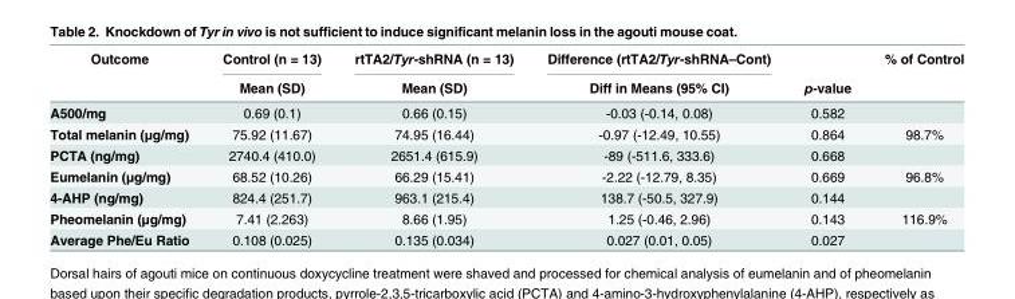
<table><thead><tr><td rowspan="2">Outcome</td><td rowspan="2">Control (n = 13) Mean (SD)</td><td rowspan="2">rtTA2/Tyr-shRNA (n = 13) Mean (SD)</td><td rowspan="2">Difference (rtTA2/Tyr-shRNA–Cont) Diff in Means (95% CI)</td><td rowspan="2">p-value</td><td rowspan="2">% of Control</td></tr><tr></tr></thead><tbody><tr><td>A500/mg</td><td>0.69 (0.1)</td><td>0.66 (0.15)</td><td>-0.03 (-0.14, 0.08)</td><td>0.582</td><td></td></tr><tr><td>Total melanin (μg/mg)</td><td>75.92 (11.67)</td><td>74.95 (16.44)</td><td>-0.97 (-12.49, 10.55)</td><td>0.864</td><td>98.7%</td></tr><tr><td>PCTA (ng/mg)</td><td>2740.4 (410.0)</td><td>2651.4 (615.9)</td><td>-89 (-511.6, 333.6)</td><td>0.668</td><td></td></tr><tr><td>Eumelanin (μg/mg)</td><td>68.52 (10.26)</td><td>66.29 (15.41)</td><td>-2.22 (-12.79, 8.35)</td><td>0.669</td><td>96.8%</td></tr><tr><td>4-AHP (ng/mg)</td><td>824.4 (251.7)</td><td>963.1 (215.4)</td><td>138.7 (-50.5, 327.9)</td><td>0.144</td><td></td></tr><tr><td>Pheomelanin (μg/mg)</td><td>7.41 (2.263)</td><td>8.66 (1.95)</td><td>1.25 (-0.46, 2.96)</td><td>0.143</td><td>116.9%</td></tr><tr><td>Average Phe/Eu Ratio</td><td>0.108 (0.025)</td><td>0.135 (0.034)</td><td>0.027 (0.01, 0.05)</td><td>0.027</td><td></td></tr></tbody></table>